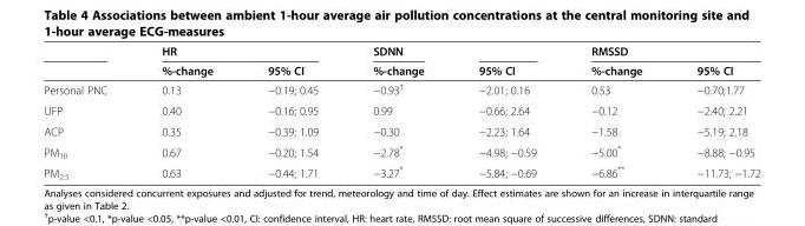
<table><thead><tr><td rowspan="2"></td><td colspan="2">HR</td><td rowspan="2">SDNN %-change</td><td rowspan="2">95% CI</td><td colspan="2">RMSSD</td></tr><tr><td>%-change</td><td>95% CI</td><td>%-change</td><td>95% CI</td></tr></thead><tbody><tr><td>Personal PNC</td><td>0.13</td><td>−0.19; 0.45</td><td>−0.93<sup>†</sup></td><td>−2.01; 0.16</td><td>0.53</td><td>−0.70;1.77</td></tr><tr><td>UFP</td><td>0.40</td><td>−0.16; 0.95</td><td>0.99</td><td>−0.66; 2.64</td><td>−0.12</td><td>−2.40; 2.21</td></tr><tr><td>ACP</td><td>0.35</td><td>−0.39; 1.09</td><td>−0.30</td><td>−2.23; 1.64</td><td>−1.58</td><td>−5.19; 2.18</td></tr><tr><td>PM<sub>10</sub></td><td>0.67</td><td>−0.20; 1.54</td><td>−2.78*</td><td>−4.98; −0.59</td><td>−5.00*</td><td>−8.88; −0.95</td></tr><tr><td>PM<sub>2.5</sub></td><td>0.63</td><td>−0.44; 1.71</td><td>−3.27*</td><td>−5.84; −0.69</td><td>−6.86**</td><td>−11.73; −1.72</td></tr></tbody></table>